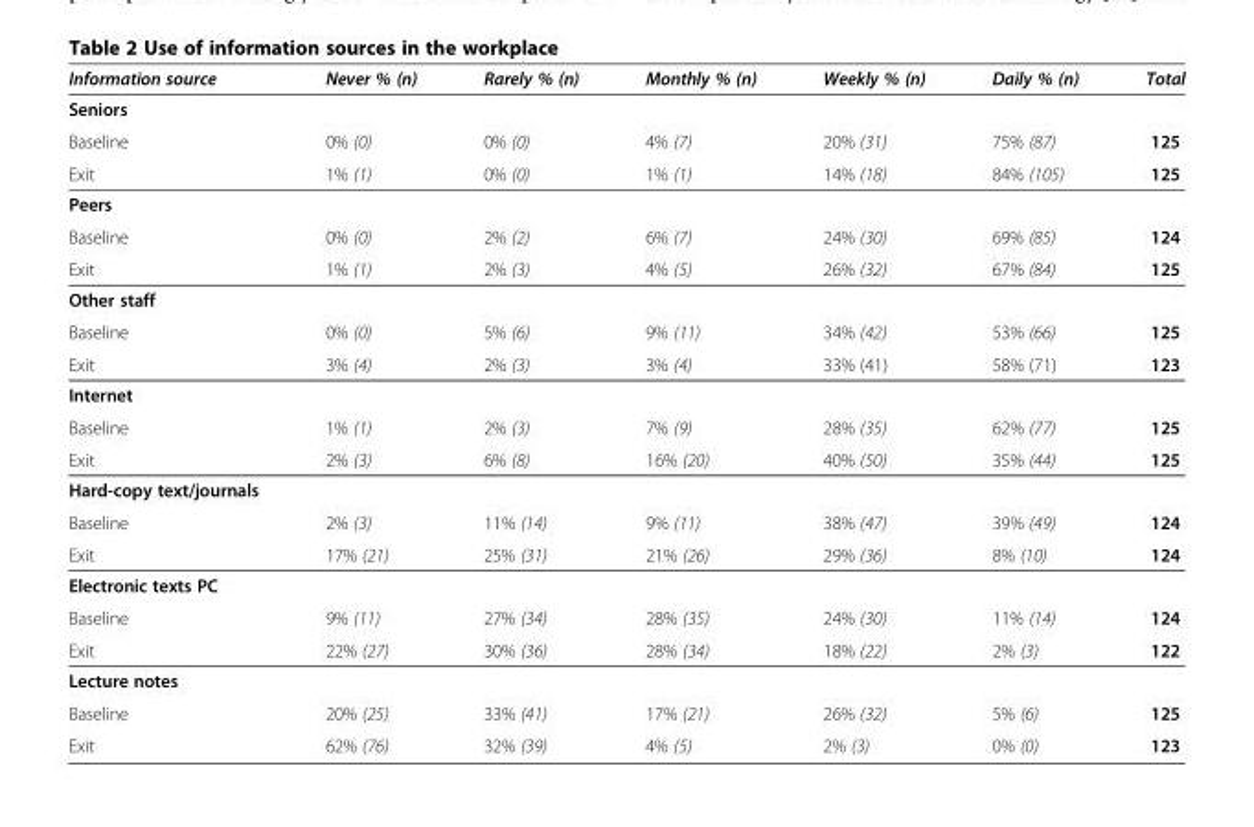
<table><thead><tr><td>Information source</td><td>Never % (n)</td><td>Rarely % (n)</td><td>Monthly % (n)</td><td>Weekly % (n)</td><td>Daily % (n)</td><td>Total</td></tr></thead><tbody><tr><td colspan="7">Seniors</td></tr><tr><td>Baseline</td><td>0% (0)</td><td>0% (0)</td><td>4% (7)</td><td>20% (31)</td><td>75% (87)</td><td>125</td></tr><tr><td>Exit</td><td>1% (1)</td><td>0% (0)</td><td>1% (1)</td><td>14% (18)</td><td>84% (105)</td><td>125</td></tr><tr><td colspan="7">Peers</td></tr><tr><td>Baseline</td><td>0% (0)</td><td>2% (2)</td><td>6% (7)</td><td>24% (30)</td><td>69% (85)</td><td>124</td></tr><tr><td>Exit</td><td>1% (1)</td><td>2% (3)</td><td>4% (5)</td><td>26% (32)</td><td>67% (84)</td><td>125</td></tr><tr><td colspan="7">Other staff</td></tr><tr><td>Baseline</td><td>0% (0)</td><td>5% (6)</td><td>9% (11)</td><td>34% (42)</td><td>53% (66)</td><td>125</td></tr><tr><td>Exit</td><td>3% (4)</td><td>2% (3)</td><td>3% (4)</td><td>33% (41)</td><td>58% (71)</td><td>123</td></tr><tr><td colspan="7">Internet</td></tr><tr><td>Baseline</td><td>1% (1)</td><td>2% (3)</td><td>7% (9)</td><td>28% (35)</td><td>62% (77)</td><td>125</td></tr><tr><td>Exit</td><td>2% (3)</td><td>6% (8)</td><td>16% (20)</td><td>40% (50)</td><td>35% (44)</td><td>125</td></tr><tr><td colspan="7">Hard-copy text/journals</td></tr><tr><td>Baseline</td><td>2% (3)</td><td>11% (14)</td><td>9% (11)</td><td>38% (47)</td><td>39% (49)</td><td>124</td></tr><tr><td>Exit</td><td>17% (21)</td><td>25% (31)</td><td>21% (26)</td><td>29% (36)</td><td>8% (10)</td><td>124</td></tr><tr><td colspan="7">Electronic texts PC</td></tr><tr><td>Baseline</td><td>9% (11)</td><td>27% (34)</td><td>28% (35)</td><td>24% (30)</td><td>11% (14)</td><td>124</td></tr><tr><td>Exit</td><td>22% (27)</td><td>30% (36)</td><td>28% (34)</td><td>18% (22)</td><td>2% (3)</td><td>122</td></tr><tr><td colspan="7">Lecture notes</td></tr><tr><td>Baseline</td><td>20% (25)</td><td>33% (41)</td><td>17% (21)</td><td>26% (32)</td><td>5% (6)</td><td>125</td></tr><tr><td>Exit</td><td>62% (76)</td><td>32% (39)</td><td>4% (5)</td><td>2% (3)</td><td>0% (0)</td><td>123</td></tr></tbody></table>